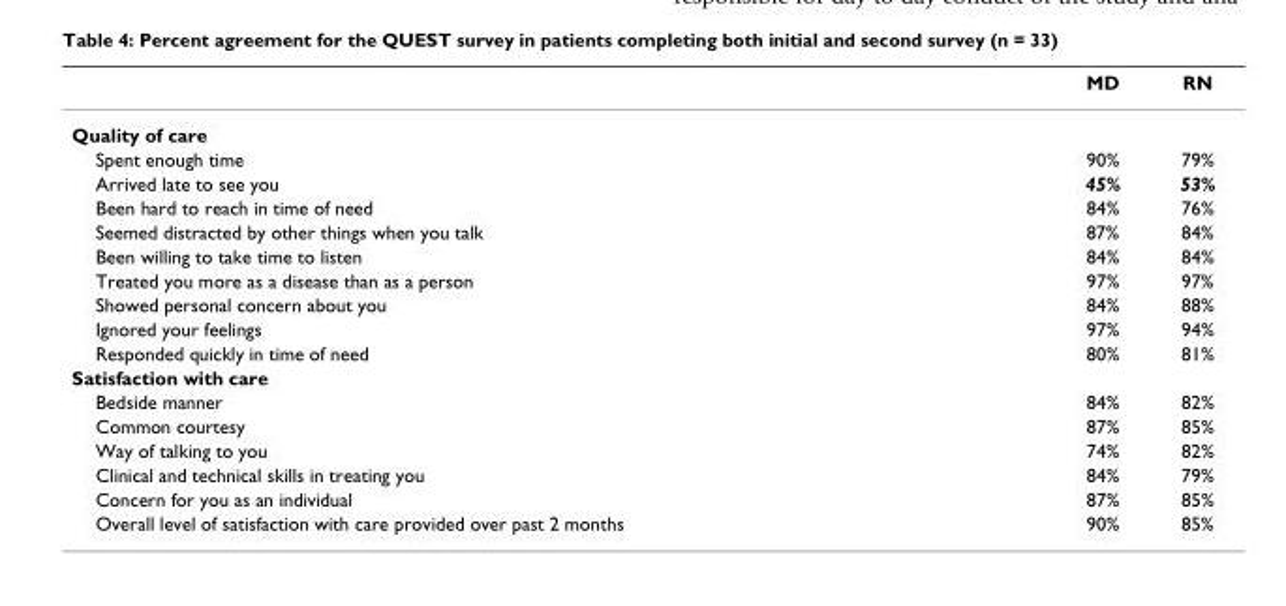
<table><thead><tr><td></td><td>MD</td><td>RN</td></tr></thead><tbody><tr><td colspan="3">Quality of care</td></tr><tr><td>Spent enough time</td><td>90%</td><td>79%</td></tr><tr><td>Arrived late to see you</td><td>45%</td><td>53%</td></tr><tr><td>Been hard to reach in time of need</td><td>84%</td><td>76%</td></tr><tr><td>Seemed distracted by other things when you talk</td><td>87%</td><td>84%</td></tr><tr><td>Been willing to take time to listen</td><td>84%</td><td>84%</td></tr><tr><td>Treated you more as a disease than as a person</td><td>97%</td><td>97%</td></tr><tr><td>Showed personal concern about you</td><td>84%</td><td>88%</td></tr><tr><td>Ignored your feelings</td><td>97%</td><td>94%</td></tr><tr><td>Responded quickly in time of need</td><td>80%</td><td>81%</td></tr><tr><td colspan="3">Satisfaction with care</td></tr><tr><td>Bedside manner</td><td>84%</td><td>82%</td></tr><tr><td>Common courtesy</td><td>87%</td><td>85%</td></tr><tr><td>Way of talking to you</td><td>74%</td><td>82%</td></tr><tr><td>Clinical and technical skills in treating you</td><td>84%</td><td>79%</td></tr><tr><td>Concern for you as an individual</td><td>87%</td><td>85%</td></tr><tr><td>Overall level of satisfaction with care provided over past 2 months</td><td>90%</td><td>85%</td></tr></tbody></table>